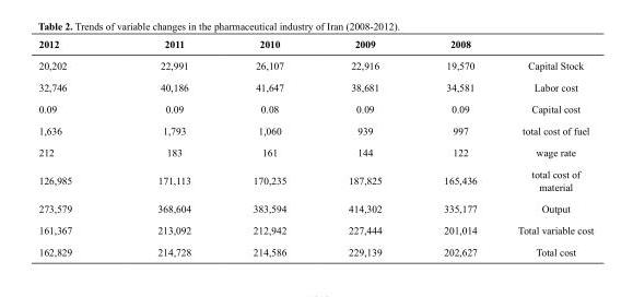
<table><thead><tr><td>2012</td><td>2011</td><td>2010</td><td>2009</td><td>2008</td><td></td></tr></thead><tbody><tr><td>20,202</td><td>22,991</td><td>26,107</td><td>22,916</td><td>19,570</td><td>Capital Stock</td></tr><tr><td>32,746</td><td>40,186</td><td>41,647</td><td>38,681</td><td>34,581</td><td>Labor cost</td></tr><tr><td>0.09</td><td>0.09</td><td>0.08</td><td>0.09</td><td>0.09</td><td>Capital cost</td></tr><tr><td>1,636</td><td>1,793</td><td>1,060</td><td>939</td><td>997</td><td>total cost of fuel</td></tr><tr><td>212</td><td>183</td><td>161</td><td>144</td><td>122</td><td>wage rate</td></tr><tr><td>126,985</td><td>171,113</td><td>170,235</td><td>187,825</td><td>165,436</td><td>total cost of material</td></tr><tr><td>273,579</td><td>368,604</td><td>383,594</td><td>414,302</td><td>335,177</td><td>Output</td></tr><tr><td>161,367</td><td>213,092</td><td>212,942</td><td>227,444</td><td>201,014</td><td>Total variable cost</td></tr><tr><td>162,829</td><td>214,728</td><td>214,586</td><td>229,139</td><td>202,627</td><td>Total cost</td></tr></tbody></table>